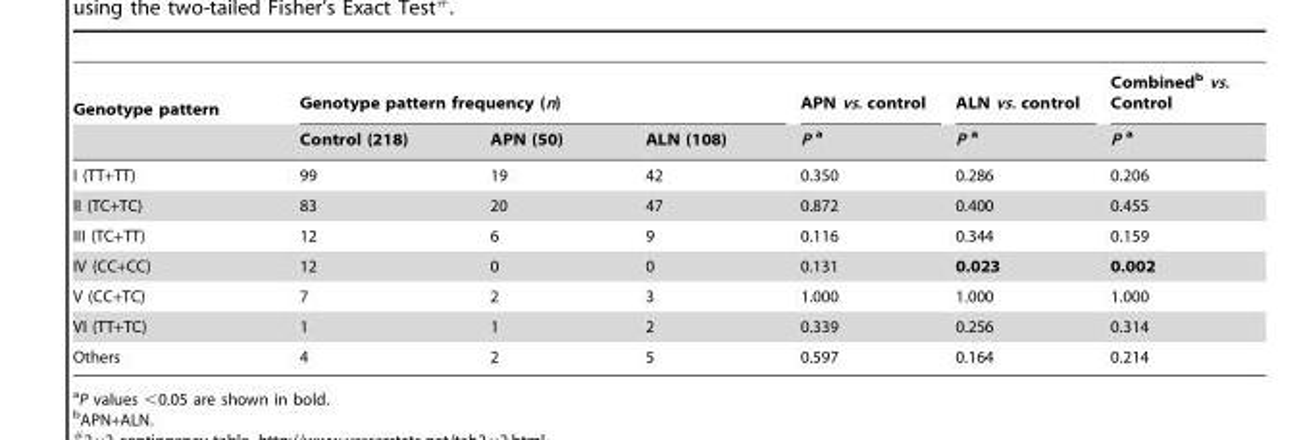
<table><thead><tr><td rowspan="2">Genotype pattern</td><td colspan="3">Genotype pattern frequency (n)</td><td rowspan="2">APN vs. control P a</td><td rowspan="2">ALN vs. control P a</td><td rowspan="2">Combined<sup>b</sup> vs. Control P a</td></tr><tr><td>Control (218)</td><td>APN (50)</td><td>ALN (108)</td></tr></thead><tbody><tr><td>I (TT+TT)</td><td>99</td><td>19</td><td>42</td><td>0.350</td><td>0.286</td><td>0.206</td></tr><tr><td>II (TC+TC)</td><td>83</td><td>20</td><td>47</td><td>0.872</td><td>0.400</td><td>0.455</td></tr><tr><td>III (TC+TT)</td><td>12</td><td>6</td><td>9</td><td>0.116</td><td>0.344</td><td>0.159</td></tr><tr><td>IV (CC+CC)</td><td>12</td><td>0</td><td>0</td><td>0.131</td><td>0.023</td><td>0.002</td></tr><tr><td>V (CC+TC)</td><td>7</td><td>2</td><td>3</td><td>1.000</td><td>1.000</td><td>1.000</td></tr><tr><td>VI (TT+TC)</td><td>1</td><td>1</td><td>2</td><td>0.339</td><td>0.256</td><td>0.314</td></tr><tr><td>Others</td><td>4</td><td>2</td><td>5</td><td>0.597</td><td>0.164</td><td>0.214</td></tr></tbody></table>